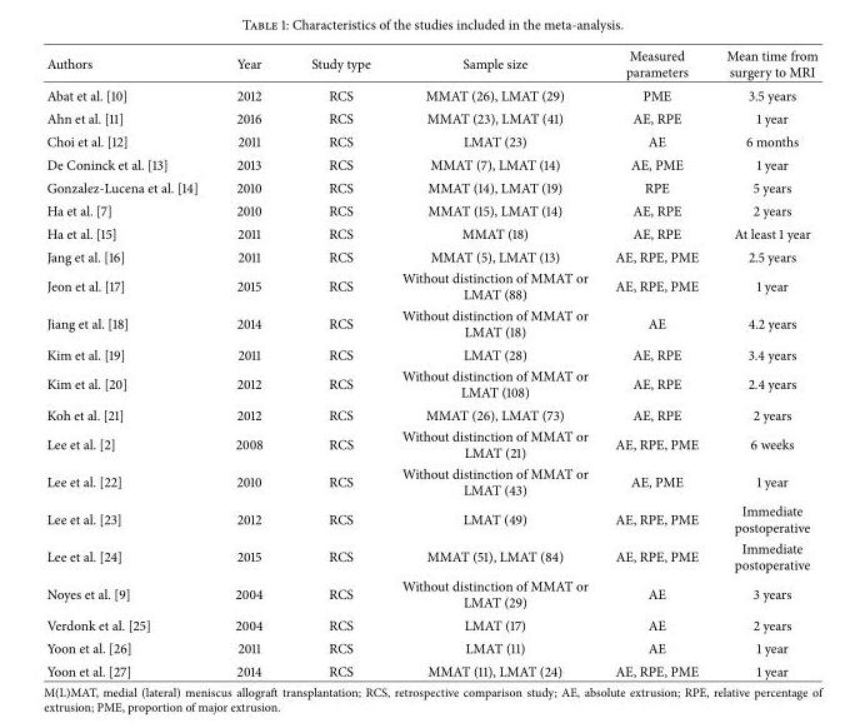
<table><thead><tr><td>Authors</td><td>Year</td><td>Study type</td><td>Sample size</td><td>Measured parameters</td><td>Mean time from surgery to MRI</td></tr></thead><tbody><tr><td>Abat et al. [10]</td><td>2012</td><td>RCS</td><td>MMAT (26), LMAT (29)</td><td>PME</td><td>3.5 years</td></tr><tr><td>Ahn et al. [11]</td><td>2016</td><td>RCS</td><td>MMAT (23), LMAT (41)</td><td>AE, RPE</td><td>1 year</td></tr><tr><td>Choi et al. [12]</td><td>2011</td><td>RCS</td><td>LMAT (23)</td><td>AE</td><td>6 months</td></tr><tr><td>De Coninck et al. [13]</td><td>2013</td><td>RCS</td><td>MMAT (7), LMAT (14)</td><td>AE, PME</td><td>1 year</td></tr><tr><td>Gonzalez-Lucena et al. [14]</td><td>2010</td><td>RCS</td><td>MMAT (14), LMAT (19)</td><td>RPE</td><td>5 years</td></tr><tr><td>Ha et al. [7]</td><td>2010</td><td>RCS</td><td>MMAT (15), LMAT (14)</td><td>AE, RPE</td><td>2 years</td></tr><tr><td>Ha et al. [15]</td><td>2011</td><td>RCS</td><td>MMAT (18)</td><td>AE, RPE</td><td>At least 1 year</td></tr><tr><td>Jang et al. [16]</td><td>2011</td><td>RCS</td><td>MMAT (5), LMAT (13)</td><td>AE, RPE, PME</td><td>2.5 years</td></tr><tr><td>Jeon et al. [17]</td><td>2015</td><td>RCS</td><td>Without distinction of MMAT or LMAT (88)</td><td>AE, RPE, PME</td><td>1 year</td></tr><tr><td>Jiang et al. [18]</td><td>2014</td><td>RCS</td><td>Without distinction of MMAT or LMAT (18)</td><td>AE</td><td>4.2 years</td></tr><tr><td>Kim et al. [19]</td><td>2011</td><td>RCS</td><td>LMAT (28)</td><td>AE, RPE</td><td>3.4 years</td></tr><tr><td>Kim et al. [20]</td><td>2012</td><td>RCS</td><td>Without distinction of MMAT or LMAT (108)</td><td>AE, RPE</td><td>2.4 years</td></tr><tr><td>Koh et al. [21]</td><td>2012</td><td>RCS</td><td>MMAT (26), LMAT (73)</td><td>AE, RPE</td><td>2 years</td></tr><tr><td>Lee et al. [2]</td><td>2008</td><td>RCS</td><td>Without distinction of MMAT or LMAT (21)</td><td>AE, RPE, PME</td><td>6 weeks</td></tr><tr><td>Lee et al. [22]</td><td>2010</td><td>RCS</td><td>Without distinction of MMAT or LMAT (43)</td><td>AE, PME</td><td>1 year</td></tr><tr><td>Lee et al. [23]</td><td>2012</td><td>RCS</td><td>LMAT (49)</td><td>AE, RPE, PME</td><td>Immediate postoperative</td></tr><tr><td>Lee et al. [24]</td><td>2015</td><td>RCS</td><td>MMAT (51), LMAT (84)</td><td>AE, RPE, PME</td><td>Immediate postoperative</td></tr><tr><td>Noyes et al. [9]</td><td>2004</td><td>RCS</td><td>Without distinction of MMAT or LMAT (29)</td><td>AE</td><td>3 years</td></tr><tr><td>Verdonk et al. [25]</td><td>2004</td><td>RCS</td><td>LMAT (17)</td><td>AE</td><td>2 years</td></tr><tr><td>Yoon et al. [26]</td><td>2011</td><td>RCS</td><td>LMAT (11)</td><td>AE</td><td>1 year</td></tr><tr><td>Yoon et al. [27]</td><td>2014</td><td>RCS</td><td>MMAT (11), LMAT (24)</td><td>AE, RPE, PME</td><td>1 year</td></tr></tbody></table>